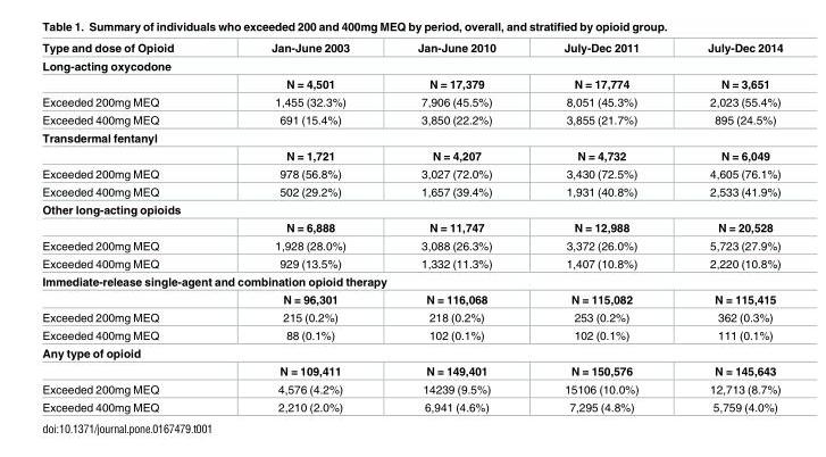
<table><thead><tr><td>Type and dose of Opioid</td><td>Jan-June 2003</td><td>Jan-June 2010</td><td>July-Dec 2011</td><td>July-Dec 2014</td></tr></thead><tbody><tr><td colspan="5">Long-acting oxycodone</td></tr><tr><td></td><td>N = 4,501</td><td>N = 17,379</td><td>N = 17,774</td><td>N = 3,651</td></tr><tr><td>Exceeded 200mg MEQ</td><td>1,455 (32.3%)</td><td>7,906 (45.5%)</td><td>8,051 (45.3%)</td><td>2,023 (55.4%)</td></tr><tr><td>Exceeded 400mg MEQ</td><td>691 (15.4%)</td><td>3,850 (22.2%)</td><td>3,855 (21.7%)</td><td>895 (24.5%)</td></tr><tr><td colspan="5">Transdermal fentanyl</td></tr><tr><td></td><td>N = 1,721</td><td>N = 4,207</td><td>N = 4,732</td><td>N = 6,049</td></tr><tr><td>Exceeded 200mg MEQ</td><td>978 (56.8%)</td><td>3,027 (72.0%)</td><td>3,430 (72.5%)</td><td>4,605 (76.1%)</td></tr><tr><td>Exceeded 400mg MEQ</td><td>502 (29.2%)</td><td>1,657 (39.4%)</td><td>1,931 (40.8%)</td><td>2,533 (41.9%)</td></tr><tr><td colspan="5">Other long-acting opioids</td></tr><tr><td></td><td>N = 6,888</td><td>N = 11,747</td><td>N = 12,988</td><td>N = 20,528</td></tr><tr><td>Exceeded 200mg MEQ</td><td>1,928 (28.0%)</td><td>3,088 (26.3%)</td><td>3,372 (26.0%)</td><td>5,723 (27.9%)</td></tr><tr><td>Exceeded 400mg MEQ</td><td>929 (13.5%)</td><td>1,332 (11.3%)</td><td>1,407 (10.8%)</td><td>2,220 (10.8%)</td></tr><tr><td colspan="5">Immediate-release single-agent and combination opioid therapy</td></tr><tr><td></td><td>N = 96,301</td><td>N = 116,068</td><td>N = 115,082</td><td>N = 115,415</td></tr><tr><td>Exceeded 200mg MEQ</td><td>215 (0.2%)</td><td>218 (0.2%)</td><td>253 (0.2%)</td><td>362 (0.3%)</td></tr><tr><td>Exceeded 400mg MEQ</td><td>88 (0.1%)</td><td>102 (0.1%)</td><td>102 (0.1%)</td><td>111 (0.1%)</td></tr><tr><td colspan="5">Any type of opioid</td></tr><tr><td></td><td>N = 109,411</td><td>N = 149,401</td><td>N = 150,576</td><td>N = 145,643</td></tr><tr><td>Exceeded 200mg MEQ</td><td>4,576 (4.2%)</td><td>14239 (9.5%)</td><td>15106 (10.0%)</td><td>12,713 (8.7%)</td></tr><tr><td>Exceeded 400mg MEQ</td><td>2,210 (2.0%)</td><td>6,941 (4.6%)</td><td>7,295 (4.8%)</td><td>5,759 (4.0%)</td></tr></tbody></table>